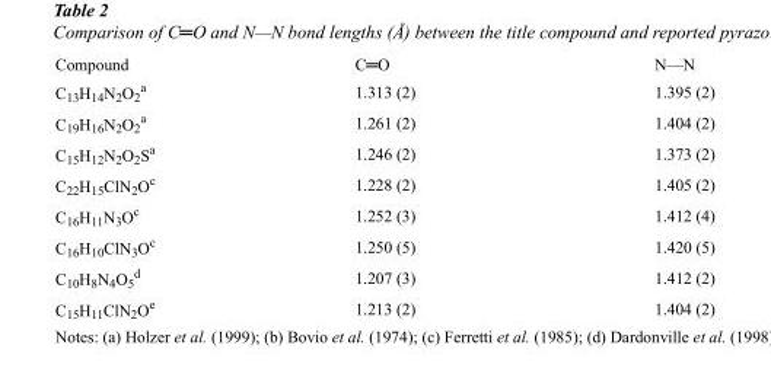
<table><tbody><tr><td>Compound</td><td>C═O</td><td>N—N</td></tr><tr><td>C<sub>13</sub>H<sub>14</sub>N<sub>2</sub>O<sub>2</sub> <sup>a</sup></td><td>1.313 (2)</td><td>1.395 (2)</td></tr><tr><td>C<sub>19</sub>H<sub>16</sub>N<sub>2</sub>O<sub>2</sub> <sup>a</sup></td><td>1.261 (2)</td><td>1.404 (2)</td></tr><tr><td>C<sub>15</sub>H<sub>12</sub>N<sub>2</sub>O<sub>2</sub>S<sup>a</sup></td><td>1.246 (2)</td><td>1.373 (2)</td></tr><tr><td>C<sub>22</sub>H<sub>15</sub>ClN<sub>2</sub>O<sup>c</sup></td><td>1.228 (2)</td><td>1.405 (2)</td></tr><tr><td>C<sub>16</sub>H<sub>11</sub>N<sub>3</sub>O<sup>c</sup></td><td>1.252 (3)</td><td>1.412 (4)</td></tr><tr><td>C<sub>16</sub>H<sub>10</sub>ClN<sub>3</sub>O<sup>c</sup></td><td>1.250 (5)</td><td>1.420 (5)</td></tr><tr><td>C<sub>10</sub>H<sub>8</sub>N<sub>4</sub>O<sub>5</sub> <sup>d</sup></td><td>1.207 (3)</td><td>1.412 (2)</td></tr><tr><td>C<sub>15</sub>H<sub>11</sub>ClN<sub>2</sub>O<sup>e</sup></td><td>1.213 (2)</td><td>1.404 (2)</td></tr></tbody></table>